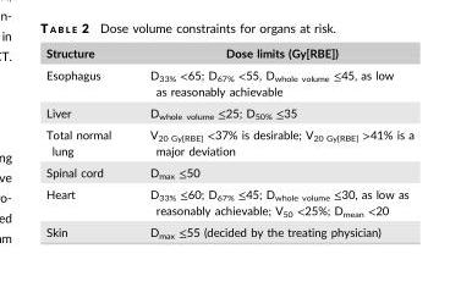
<table><thead><tr><td>Structure</td><td>Dose limits (Gy[RBE])</td></tr></thead><tbody><tr><td>Esophagus</td><td>D<sub>33%</sub> &lt;65; D<sub>67%</sub> &lt;55, D<sub>whole volume</sub> ≤45, as low as reasonably achievable</td></tr><tr><td>Liver</td><td>D<sub>whole volume</sub> ≤25; D<sub>50%</sub> ≤35</td></tr><tr><td>Total normal lung</td><td>V<sub>20 Gy[RBE]</sub> &lt;37% is desirable; V<sub>20 Gy[RBE]</sub> &gt;41% is a major deviation</td></tr><tr><td>Spinal cord</td><td>D<sub>max</sub> ≤50</td></tr><tr><td>Heart</td><td>D<sub>33%</sub> ≤60; D<sub>67%</sub> ≤45; D<sub>whole volume</sub> ≤30, as low as reasonably achievable; V<sub>50</sub> &lt;25%; D<sub>mean</sub> &lt;20</td></tr><tr><td>Skin</td><td>D<sub>max</sub> ≤55 (decided by the treating physician)</td></tr></tbody></table>